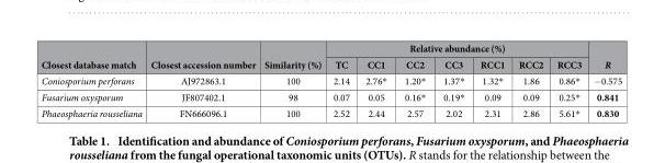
<table><thead><tr><td rowspan="2">Closest database match</td><td rowspan="2">Closest accession number</td><td rowspan="2">Similarity (%)</td><td colspan="7">Relative abundance (%)</td><td rowspan="2">R</td></tr><tr><td>TC</td><td>CC1</td><td>CC2</td><td>CC3</td><td>RCC1</td><td>RCC2</td><td>RCC3</td></tr></thead><tbody><tr><td>Coniosporium perforans</td><td>AJ972863.1</td><td>100</td><td>2.14</td><td>2.76*</td><td>1.20*</td><td>1.37*</td><td>1.32*</td><td>1.86</td><td>0.86*</td><td>− 0.575</td></tr><tr><td>Fusarium oxysporum</td><td>JF807402.1</td><td>98</td><td>0.07</td><td>0.05</td><td>0.16*</td><td>0.19*</td><td>0.09</td><td>0.09</td><td>0.25*</td><td>0.841</td></tr><tr><td>Phaeosphaeria rousseliana</td><td>FN666096.1</td><td>100</td><td>2.52</td><td>2.44</td><td>2.57</td><td>2.02</td><td>2.31</td><td>2.86</td><td>5.61*</td><td>0.830</td></tr></tbody></table>